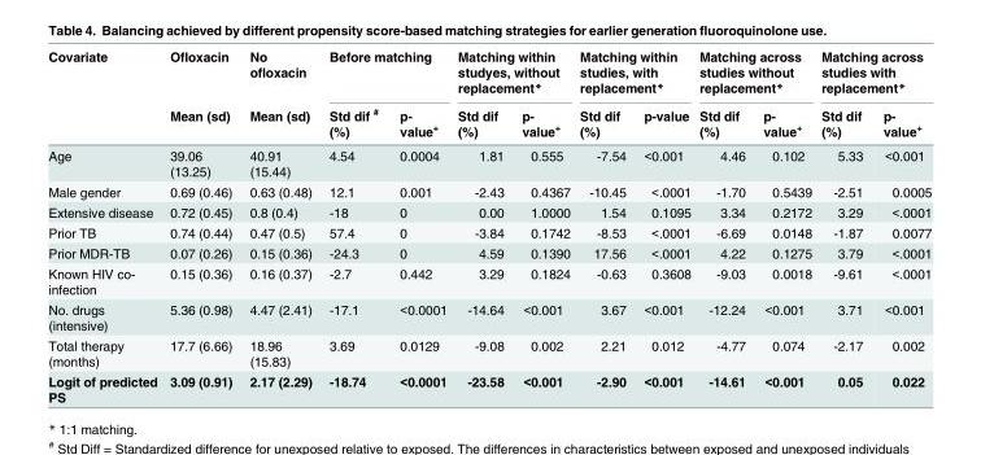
<table><thead><tr><td rowspan="2">Covariate</td><td rowspan="2">Ofloxacin Mean (sd)</td><td rowspan="2">No ofloxacin Mean (sd)</td><td colspan="2">Before matching</td><td colspan="2">Matching within studyes, without replacement*</td><td colspan="2">Matching within studies, with replacement*</td><td colspan="2">Matching across studies without replacement*</td><td colspan="2">Matching across studies with replacement*</td></tr><tr><td>Std dif <sup>#</sup> (%)</td><td>p- value<sup>+</sup></td><td>Std dif (%)</td><td>p- value<sup>+</sup></td><td>Std dif (%)</td><td>p-value</td><td>Std dif (%)</td><td>p- value<sup>+</sup></td><td>Std dif (%)</td><td>p- value<sup>+</sup></td></tr></thead><tbody><tr><td>Age</td><td>39.06 (13.25)</td><td>40.91 (15.44)</td><td>4.54</td><td>0.0004</td><td>1.81</td><td>0.555</td><td>-7.54</td><td>&lt;0.001</td><td>4.46</td><td>0.102</td><td>5.33</td><td>&lt;0.001</td></tr><tr><td>Male gender</td><td>0.69 (0.46)</td><td>0.63 (0.48)</td><td>12.1</td><td>0.001</td><td>-2.43</td><td>0.4367</td><td>-10.45</td><td>&lt;.0001</td><td>-1.70</td><td>0.5439</td><td>-2.51</td><td>0.0005</td></tr><tr><td>Extensive disease</td><td>0.72 (0.45)</td><td>0.8 (0.4)</td><td>-18</td><td>0</td><td>0.00</td><td>1.0000</td><td>1.54</td><td>0.1095</td><td>3.34</td><td>0.2172</td><td>3.29</td><td>&lt;.0001</td></tr><tr><td>Prior TB</td><td>0.74 (0.44)</td><td>0.47 (0.5)</td><td>57.4</td><td>0</td><td>-3.84</td><td>0.1742</td><td>-8.53</td><td>&lt;.0001</td><td>-6.69</td><td>0.0148</td><td>-1.87</td><td>0.0077</td></tr><tr><td>Prior MDR-TB</td><td>0.07 (0.26)</td><td>0.15 (0.36)</td><td>-24.3</td><td>0</td><td>4.59</td><td>0.1390</td><td>17.56</td><td>&lt;.0001</td><td>4.22</td><td>0.1275</td><td>3.79</td><td>&lt;.0001</td></tr><tr><td>Known HIV co- infection</td><td>0.15 (0.36)</td><td>0.16 (0.37)</td><td>-2.7</td><td>0.442</td><td>3.29</td><td>0.1824</td><td>-0.63</td><td>0.3608</td><td>-9.03</td><td>0.0018</td><td>-9.61</td><td>&lt;.0001</td></tr><tr><td>No. drugs (intensive)</td><td>5.36 (0.98)</td><td>4.47 (2.41)</td><td>-17.1</td><td>&lt;0.0001</td><td>-14.64</td><td>&lt;0.001</td><td>3.67</td><td>&lt;0.001</td><td>-12.24</td><td>&lt;0.001</td><td>3.71</td><td>&lt;0.001</td></tr><tr><td>Total therapy (months)</td><td>17.7 (6.66)</td><td>18.96 (15.83)</td><td>3.69</td><td>0.0129</td><td>-9.08</td><td>0.002</td><td>2.21</td><td>0.012</td><td>-4.77</td><td>0.074</td><td>-2.17</td><td>0.002</td></tr><tr><td>Logit of predicted PS</td><td>3.09 (0.91)</td><td>2.17 (2.29)</td><td>-18.74</td><td>&lt;0.0001</td><td>-23.58</td><td>&lt;0.001</td><td>-2.90</td><td>&lt;0.001</td><td>-14.61</td><td>&lt;0.001</td><td>0.05</td><td>0.022</td></tr></tbody></table>